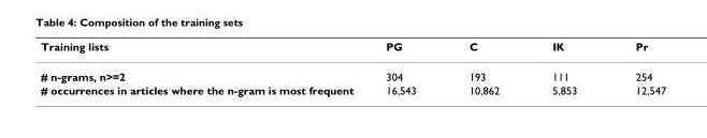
<table><thead><tr><td>Training lists</td><td>PG</td><td>C</td><td>IK</td><td>Pr</td></tr></thead><tbody><tr><td># n-grams, n&gt;=2</td><td>304</td><td>193</td><td>111</td><td>254</td></tr><tr><td># occurrences in articles where the n-gram is most frequent</td><td>16,543</td><td>10,862</td><td>5,853</td><td>12,547</td></tr></tbody></table>